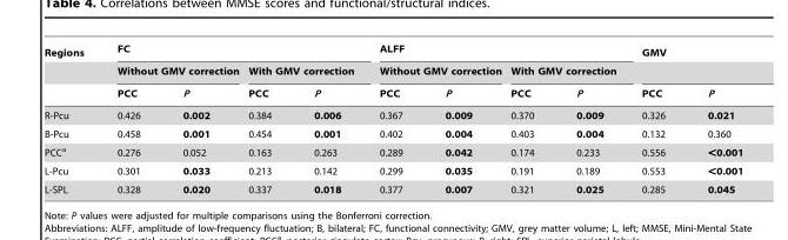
<table><thead><tr><td rowspan="3">Regions</td><td colspan="4">FC</td><td colspan="4">ALFF</td><td colspan="2">GMV</td></tr><tr><td colspan="2">Without GMV correction</td><td colspan="2">With GMV correction</td><td colspan="2">Without GMV correction</td><td colspan="2">With GMV correction</td><td rowspan="2">PCC</td><td rowspan="2">P</td></tr><tr><td>PCC</td><td>P</td><td>PCC</td><td>P</td><td>PCC</td><td>P</td><td>PCC</td><td>P</td></tr></thead><tbody><tr><td>R-Pcu</td><td>0.426</td><td>0.002</td><td>0.384</td><td>0.006</td><td>0.367</td><td>0.009</td><td>0.370</td><td>0.009</td><td>0.326</td><td>0.021</td></tr><tr><td>B-Pcu</td><td>0.458</td><td>0.001</td><td>0.454</td><td>0.001</td><td>0.402</td><td>0.004</td><td>0.403</td><td>0.004</td><td>0.132</td><td>0.360</td></tr><tr><td>PCC<sup>a</sup></td><td>0.276</td><td>0.052</td><td>0.163</td><td>0.263</td><td>0.289</td><td>0.042</td><td>0.174</td><td>0.233</td><td>0.556</td><td>&lt;0.001</td></tr><tr><td>L-Pcu</td><td>0.301</td><td>0.033</td><td>0.213</td><td>0.142</td><td>0.299</td><td>0.035</td><td>0.191</td><td>0.189</td><td>0.553</td><td>&lt;0.001</td></tr><tr><td>L-SPL</td><td>0.328</td><td>0.020</td><td>0.337</td><td>0.018</td><td>0.377</td><td>0.007</td><td>0.321</td><td>0.025</td><td>0.285</td><td>0.045</td></tr></tbody></table>